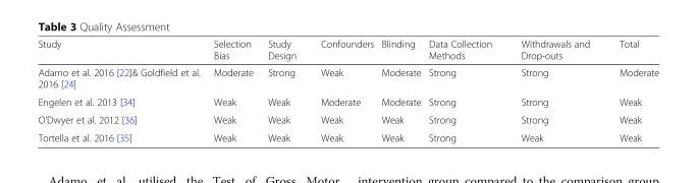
<table><thead><tr><td>Study</td><td>Selection Bias</td><td>Study Design</td><td>Confounders</td><td>Blinding</td><td>Data Collection Methods</td><td>Withdrawals and Drop-outs</td><td>Total</td></tr></thead><tbody><tr><td>Adamo et al. 2016 [22]&amp; Goldfield et al. 2016 [24]</td><td>Moderate</td><td>Strong</td><td>Weak</td><td>Moderate</td><td>Strong</td><td>Strong</td><td>Moderate</td></tr><tr><td>Engelen et al. 2013 [34]</td><td>Weak</td><td>Weak</td><td>Moderate</td><td>Moderate</td><td>Strong</td><td>Strong</td><td>Weak</td></tr><tr><td>O’Dwyer et al. 2012 [36]</td><td>Weak</td><td>Weak</td><td>Weak</td><td>Weak</td><td>Strong</td><td>Strong</td><td>Weak</td></tr><tr><td>Tortella et al. 2016 [35]</td><td>Weak</td><td>Weak</td><td>Weak</td><td>Weak</td><td>Strong</td><td>Weak</td><td>Weak</td></tr></tbody></table>